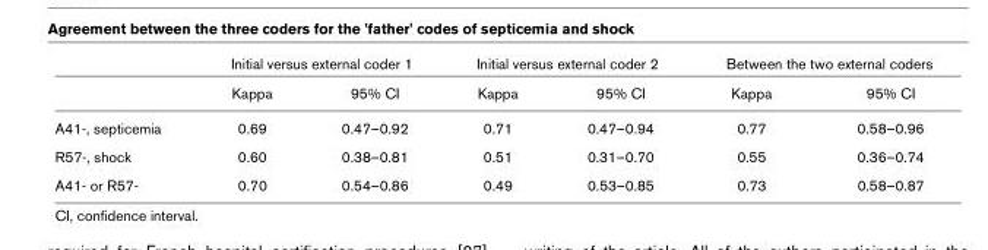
<table><thead><tr><td rowspan="2"></td><td colspan="2">Initial versus external coder 1</td><td colspan="2">Initial versus external coder 2</td><td colspan="2">Between the two external coders</td></tr><tr><td>Kappa</td><td>95% CI</td><td>Kappa</td><td>95% CI</td><td>Kappa</td><td>95% CI</td></tr></thead><tbody><tr><td>A41-, septicemia</td><td>0.69</td><td>0.47–0.92</td><td>0.71</td><td>0.47–0.94</td><td>0.77</td><td>0.58–0.96</td></tr><tr><td>R57-, shock</td><td>0.60</td><td>0.38–0.81</td><td>0.51</td><td>0.31–0.70</td><td>0.55</td><td>0.36–0.74</td></tr><tr><td>A41- or R57-</td><td>0.70</td><td>0.54–0.86</td><td>0.49</td><td>0.53–0.85</td><td>0.73</td><td>0.58–0.87</td></tr></tbody></table>